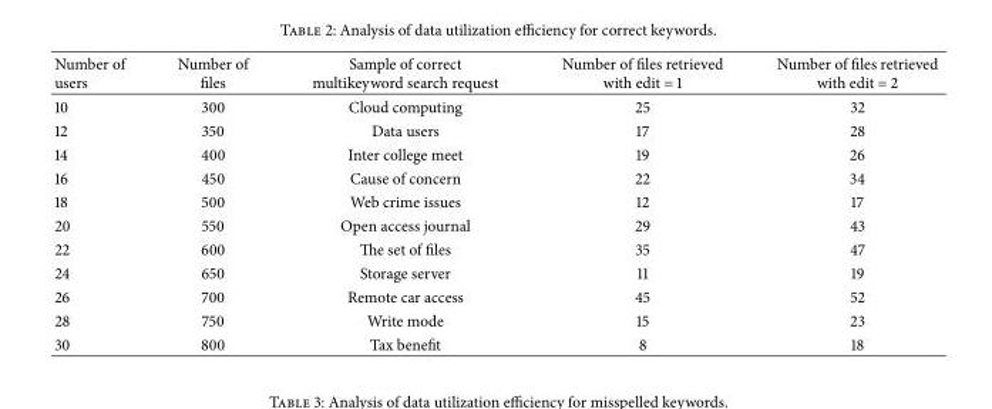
<table><thead><tr><td>Number of users</td><td>Number of files</td><td>Sample of correct multikeyword search request</td><td>Number of files retrieved with edit = 1</td><td>Number of files retrieved with edit = 2</td></tr></thead><tbody><tr><td>10</td><td>300</td><td>Cloud computing</td><td>25</td><td>32</td></tr><tr><td>12</td><td>350</td><td>Data users</td><td>17</td><td>28</td></tr><tr><td>14</td><td>400</td><td>Inter college meet</td><td>19</td><td>26</td></tr><tr><td>16</td><td>450</td><td>Cause of concern</td><td>22</td><td>34</td></tr><tr><td>18</td><td>500</td><td>Web crime issues</td><td>12</td><td>17</td></tr><tr><td>20</td><td>550</td><td>Open access journal</td><td>29</td><td>43</td></tr><tr><td>22</td><td>600</td><td>The set of files</td><td>35</td><td>47</td></tr><tr><td>24</td><td>650</td><td>Storage server</td><td>11</td><td>19</td></tr><tr><td>26</td><td>700</td><td>Remote car access</td><td>45</td><td>52</td></tr><tr><td>28</td><td>750</td><td>Write mode</td><td>15</td><td>23</td></tr><tr><td>30</td><td>800</td><td>Tax benefit</td><td>8</td><td>18</td></tr></tbody></table>